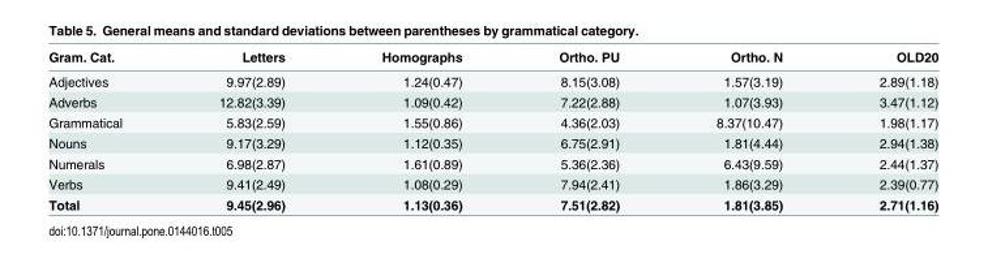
<table><thead><tr><td>Gram. Cat.</td><td>Letters</td><td>Homographs</td><td>Ortho. PU</td><td>Ortho. N</td><td>OLD20</td></tr></thead><tbody><tr><td>Adjectives</td><td>9.97(2.89)</td><td>1.24(0.47)</td><td>8.15(3.08)</td><td>1.57(3.19)</td><td>2.89(1.18)</td></tr><tr><td>Adverbs</td><td>12.82(3.39)</td><td>1.09(0.42)</td><td>7.22(2.88)</td><td>1.07(3.93)</td><td>3.47(1.12)</td></tr><tr><td>Grammatical</td><td>5.83(2.59)</td><td>1.55(0.86)</td><td>4.36(2.03)</td><td>8.37(10.47)</td><td>1.98(1.17)</td></tr><tr><td>Nouns</td><td>9.17(3.29)</td><td>1.12(0.35)</td><td>6.75(2.91)</td><td>1.81(4.44)</td><td>2.94(1.38)</td></tr><tr><td>Numerals</td><td>6.98(2.87)</td><td>1.61(0.89)</td><td>5.36(2.36)</td><td>6.43(9.59)</td><td>2.44(1.37)</td></tr><tr><td>Verbs</td><td>9.41(2.49)</td><td>1.08(0.29)</td><td>7.94(2.41)</td><td>1.86(3.29)</td><td>2.39(0.77)</td></tr><tr><td>Total</td><td>9.45(2.96)</td><td>1.13(0.36)</td><td>7.51(2.82)</td><td>1.81(3.85)</td><td>2.71(1.16)</td></tr></tbody></table>